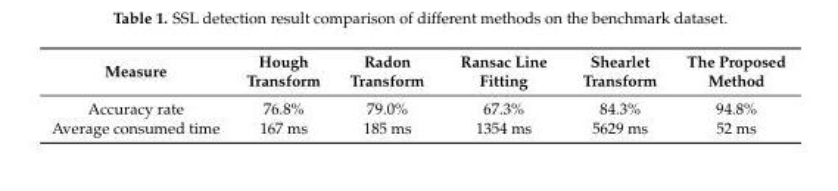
<table><thead><tr><td>Measure</td><td>Hough Transform</td><td>Radon Transform</td><td>Ransac Line Fitting</td><td>Shearlet Transform</td><td>The Proposed Method</td></tr></thead><tbody><tr><td>Accuracy rate</td><td>76.8%</td><td>79.0%</td><td>67.3%</td><td>84.3%</td><td>94.8%</td></tr><tr><td>Average consumed time</td><td>167 ms</td><td>185 ms</td><td>1354 ms</td><td>5629 ms</td><td>52 ms</td></tr></tbody></table>